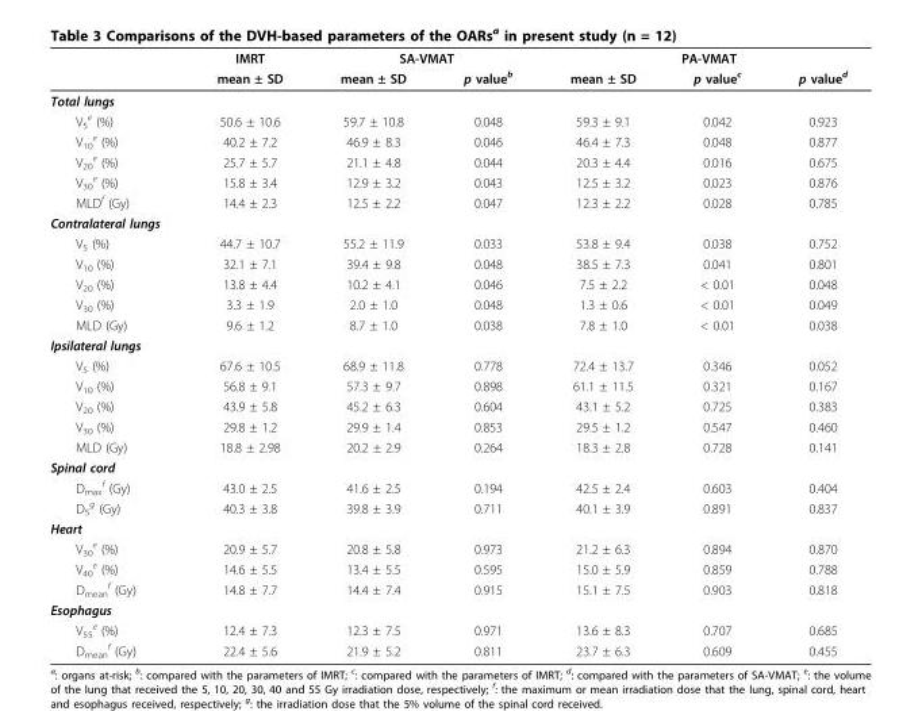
<table><thead><tr><td rowspan="2"></td><td rowspan="2">IMRT mean ± SD</td><td colspan="2">SA-VMAT</td><td colspan="3">PA-VMAT</td></tr><tr><td>mean ± SD</td><td>p value<sup>b</sup></td><td>mean ± SD</td><td>p value<sup>c</sup></td><td>p value<sup>d</sup></td></tr></thead><tbody><tr><td colspan="7">Total lungs</td></tr><tr><td>V<sub>5</sub> <sup>e</sup> (%)</td><td>50.6 ± 10.6</td><td>59.7 ± 10.8</td><td>0.048</td><td>59.3 ± 9.1</td><td>0.042</td><td>0.923</td></tr><tr><td>V<sub>10</sub> <sup>e</sup> (%)</td><td>40.2 ± 7.2</td><td>46.9 ± 8.3</td><td>0.046</td><td>46.4 ± 7.3</td><td>0.048</td><td>0.877</td></tr><tr><td>V<sub>20</sub> <sup>e</sup> (%)</td><td>25.7 ± 5.7</td><td>21.1 ± 4.8</td><td>0.044</td><td>20.3 ± 4.4</td><td>0.016</td><td>0.675</td></tr><tr><td>V<sub>30</sub> <sup>e</sup> (%)</td><td>15.8 ± 3.4</td><td>12.9 ± 3.2</td><td>0.043</td><td>12.5 ± 3.2</td><td>0.023</td><td>0.876</td></tr><tr><td>MLD<sup>f</sup> (Gy)</td><td>14.4 ± 2.3</td><td>12.5 ± 2.2</td><td>0.047</td><td>12.3 ± 2.2</td><td>0.028</td><td>0.785</td></tr><tr><td colspan="7">Contralateral lungs</td></tr><tr><td>V<sub>5</sub> (%)</td><td>44.7 ± 10.7</td><td>55.2 ± 11.9</td><td>0.033</td><td>53.8 ± 9.4</td><td>0.038</td><td>0.752</td></tr><tr><td>V<sub>10</sub> (%)</td><td>32.1 ± 7.1</td><td>39.4 ± 9.8</td><td>0.048</td><td>38.5 ± 7.3</td><td>0.041</td><td>0.801</td></tr><tr><td>V<sub>20</sub> (%)</td><td>13.8 ± 4.4</td><td>10.2 ± 4.1</td><td>0.046</td><td>7.5 ± 2.2</td><td>&lt; 0.01</td><td>0.048</td></tr><tr><td>V<sub>30</sub> (%)</td><td>3.3 ± 1.9</td><td>2.0 ± 1.0</td><td>0.048</td><td>1.3 ± 0.6</td><td>&lt; 0.01</td><td>0.049</td></tr><tr><td>MLD (Gy)</td><td>9.6 ± 1.2</td><td>8.7 ± 1.0</td><td>0.038</td><td>7.8 ± 1.0</td><td>&lt; 0.01</td><td>0.038</td></tr><tr><td colspan="7">Ipsilateral lungs</td></tr><tr><td>V<sub>5</sub> (%)</td><td>67.6 ± 10.5</td><td>68.9 ± 11.8</td><td>0.778</td><td>72.4 ± 13.7</td><td>0.346</td><td>0.052</td></tr><tr><td>V<sub>10</sub> (%)</td><td>56.8 ± 9.1</td><td>57.3 ± 9.7</td><td>0.898</td><td>61.1 ± 11.5</td><td>0.321</td><td>0.167</td></tr><tr><td>V<sub>20</sub> (%)</td><td>43.9 ± 5.8</td><td>45.2 ± 6.3</td><td>0.604</td><td>43.1 ± 5.2</td><td>0.725</td><td>0.383</td></tr><tr><td>V<sub>30</sub> (%)</td><td>29.8 ± 1.2</td><td>29.9 ± 1.4</td><td>0.853</td><td>29.5 ± 1.2</td><td>0.547</td><td>0.460</td></tr><tr><td>MLD (Gy)</td><td>18.8 ± 2.98</td><td>20.2 ± 2.9</td><td>0.264</td><td>18.3 ± 2.8</td><td>0.728</td><td>0.141</td></tr><tr><td colspan="7">Spinal cord</td></tr><tr><td>D<sub>max</sub> <sup>f</sup> (Gy)</td><td>43.0 ± 2.5</td><td>41.6 ± 2.5</td><td>0.194</td><td>42.5 ± 2.4</td><td>0.603</td><td>0.404</td></tr><tr><td>D<sub>5</sub> <sup>g</sup> (Gy)</td><td>40.3 ± 3.8</td><td>39.8 ± 3.9</td><td>0.711</td><td>40.1 ± 3.9</td><td>0.891</td><td>0.837</td></tr><tr><td colspan="7">Heart</td></tr><tr><td>V<sub>30</sub> <sup>e</sup> (%)</td><td>20.9 ± 5.7</td><td>20.8 ± 5.8</td><td>0.973</td><td>21.2 ± 6.3</td><td>0.894</td><td>0.870</td></tr><tr><td>V<sub>40</sub> <sup>e</sup> (%)</td><td>14.6 ± 5.5</td><td>13.4 ± 5.5</td><td>0.595</td><td>15.0 ± 5.9</td><td>0.859</td><td>0.788</td></tr><tr><td>D<sub>mean</sub> <sup>f</sup> (Gy)</td><td>14.8 ± 7.7</td><td>14.4 ± 7.4</td><td>0.915</td><td>15.1 ± 7.5</td><td>0.903</td><td>0.818</td></tr><tr><td colspan="7">Esophagus</td></tr><tr><td>V<sub>55</sub> <sup>e</sup> (%)</td><td>12.4 ± 7.3</td><td>12.3 ± 7.5</td><td>0.971</td><td>13.6 ± 8.3</td><td>0.707</td><td>0.685</td></tr><tr><td>D<sub>mean</sub> <sup>f</sup> (Gy)</td><td>22.4 ± 5.6</td><td>21.9 ± 5.2</td><td>0.811</td><td>23.7 ± 6.3</td><td>0.609</td><td>0.455</td></tr></tbody></table>